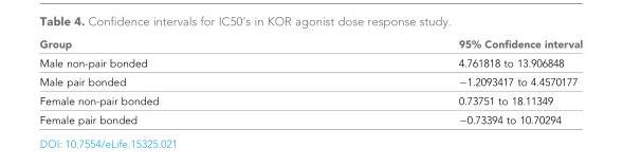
<table><thead><tr><td>Group</td><td>95% Confidence interval</td></tr></thead><tbody><tr><td>Male non-pair bonded</td><td>4.761818 to 13.906848</td></tr><tr><td>Male pair bonded</td><td>−1.2093417 to 4.4570177</td></tr><tr><td>Female non-pair bonded</td><td>0.73751 to 18.11349</td></tr><tr><td>Female pair bonded</td><td>−0.73394 to 10.70294</td></tr></tbody></table>